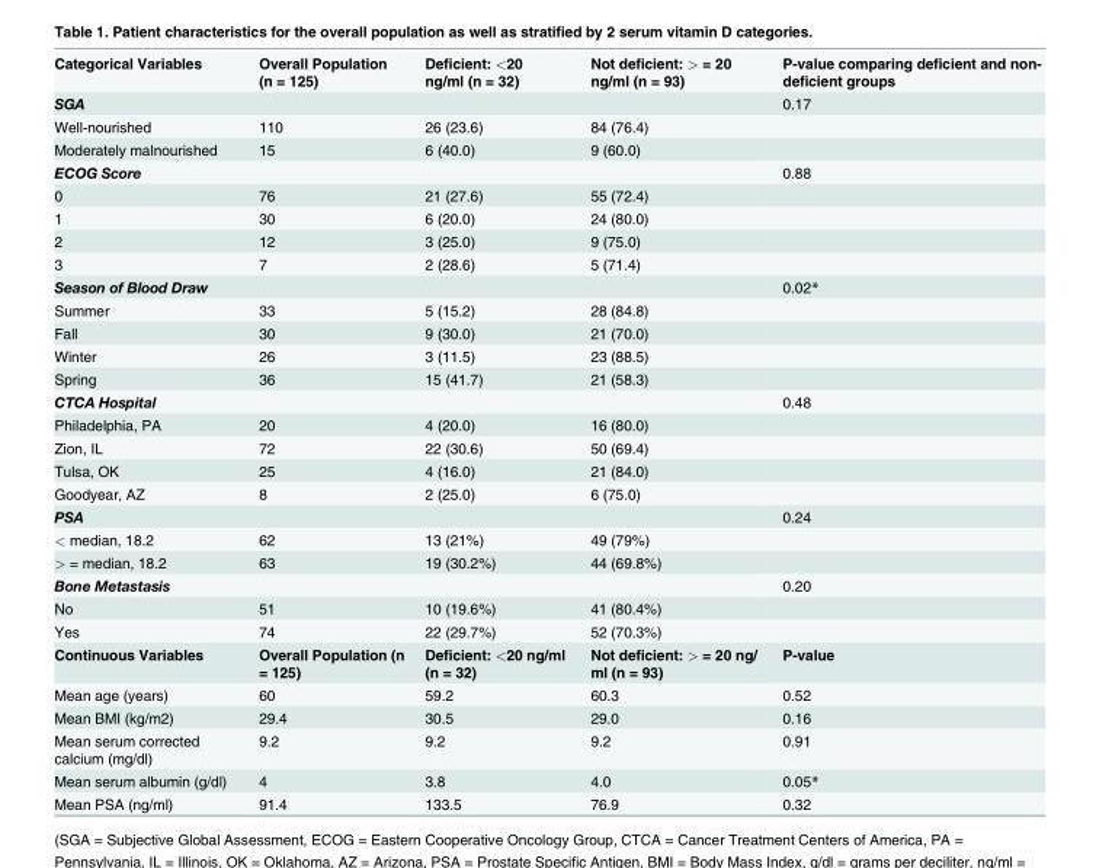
<table><tbody><tr><td>Categorical Variables</td><td>Overall Population (n = 125)</td><td>Deficient: &lt;20 ng/ml (n = 32)</td><td>Not deficient: &gt; = 20 ng/ml (n = 93)</td><td>P-value comparing deficient and non- deficient groups</td></tr><tr><td>SGA</td><td></td><td></td><td></td><td>0.17</td></tr><tr><td>Well-nourished</td><td>110</td><td>26 (23.6)</td><td>84 (76.4)</td><td></td></tr><tr><td>Moderately malnourished</td><td>15</td><td>6 (40.0)</td><td>9 (60.0)</td><td></td></tr><tr><td>ECOG Score</td><td></td><td></td><td></td><td>0.88</td></tr><tr><td>0</td><td>76</td><td>21 (27.6)</td><td>55 (72.4)</td><td></td></tr><tr><td>1</td><td>30</td><td>6 (20.0)</td><td>24 (80.0)</td><td></td></tr><tr><td>2</td><td>12</td><td>3 (25.0)</td><td>9 (75.0)</td><td></td></tr><tr><td>3</td><td>7</td><td>2 (28.6)</td><td>5 (71.4)</td><td></td></tr><tr><td>Season of Blood Draw</td><td></td><td></td><td></td><td>0.02*</td></tr><tr><td>Summer</td><td>33</td><td>5 (15.2)</td><td>28 (84.8)</td><td></td></tr><tr><td>Fall</td><td>30</td><td>9 (30.0)</td><td>21 (70.0)</td><td></td></tr><tr><td>Winter</td><td>26</td><td>3 (11.5)</td><td>23 (88.5)</td><td></td></tr><tr><td>Spring</td><td>36</td><td>15 (41.7)</td><td>21 (58.3)</td><td></td></tr><tr><td>CTCA Hospital</td><td></td><td></td><td></td><td>0.48</td></tr><tr><td>Philadelphia, PA</td><td>20</td><td>4 (20.0)</td><td>16 (80.0)</td><td></td></tr><tr><td>Zion, IL</td><td>72</td><td>22 (30.6)</td><td>50 (69.4)</td><td></td></tr><tr><td>Tulsa, OK</td><td>25</td><td>4 (16.0)</td><td>21 (84.0)</td><td></td></tr><tr><td>Goodyear, AZ</td><td>8</td><td>2 (25.0)</td><td>6 (75.0)</td><td></td></tr><tr><td>PSA</td><td></td><td></td><td></td><td>0.24</td></tr><tr><td>&lt; median, 18.2</td><td>62</td><td>13 (21%)</td><td>49 (79%)</td><td></td></tr><tr><td>&gt; = median, 18.2</td><td>63</td><td>19 (30.2%)</td><td>44 (69.8%)</td><td></td></tr><tr><td>Bone Metastasis</td><td></td><td></td><td></td><td>0.20</td></tr><tr><td>No</td><td>51</td><td>10 (19.6%)</td><td>41 (80.4%)</td><td></td></tr><tr><td>Yes</td><td>74</td><td>22 (29.7%)</td><td>52 (70.3%)</td><td></td></tr><tr><td>Continuous Variables</td><td>Overall Population (n = 125)</td><td>Deficient: &lt;20 ng/ml (n = 32)</td><td>Not deficient: &gt; = 20 ng/ ml (n = 93)</td><td>P-value</td></tr><tr><td>Mean age (years)</td><td>60</td><td>59.2</td><td>60.3</td><td>0.52</td></tr><tr><td>Mean BMI (kg/m2)</td><td>29.4</td><td>30.5</td><td>29.0</td><td>0.16</td></tr><tr><td>Mean serum corrected calcium (mg/dl)</td><td>9.2</td><td>9.2</td><td>9.2</td><td>0.91</td></tr><tr><td>Mean serum albumin (g/dl)</td><td>4</td><td>3.8</td><td>4.0</td><td>0.05*</td></tr><tr><td>Mean PSA (ng/ml)</td><td>91.4</td><td>133.5</td><td>76.9</td><td>0.32</td></tr></tbody></table>